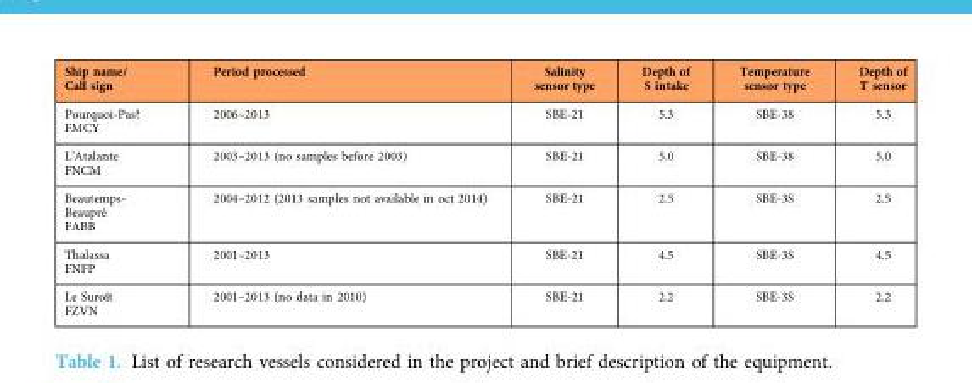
<table><thead><tr><td>Ship name/ Call sign</td><td>Period processed</td><td>Salinity sensor type</td><td>Depth of S intake</td><td>Temperature sensor type</td><td>Depth of T sensor</td></tr></thead><tbody><tr><td>Pourquoi-Pas? FMCY</td><td>2006–2013</td><td>SBE-21</td><td>5.3</td><td>SBE-38</td><td>5.3</td></tr><tr><td>L’Atalante FNCM</td><td>2003–2013 (no samples before 2003)</td><td>SBE-21</td><td>5.0</td><td>SBE-38</td><td>5.0</td></tr><tr><td>Beautemps- Beaupré FABB</td><td>2004–2012 (2013 samples not available in oct 2014)</td><td>SBE-21</td><td>2.5</td><td>SBE-3S</td><td>2.5</td></tr><tr><td>Thalassa FNFP</td><td>2001–2013</td><td>SBE-21</td><td>4.5</td><td>SBE-3S</td><td>4.5</td></tr><tr><td>Le Suroît FZVN</td><td>2001–2013 (no data in 2010)</td><td>SBE-21</td><td>2.2</td><td>SBE-3S</td><td>2.2</td></tr></tbody></table>